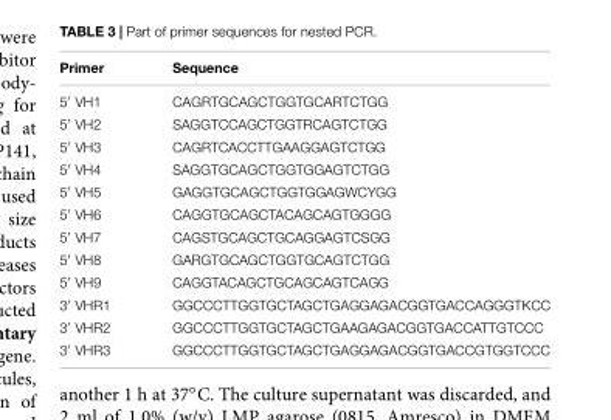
<table><thead><tr><td>Primer</td><td>Sequence</td></tr></thead><tbody><tr><td>5′ VH1</td><td>CAGRTGCAGCTGGTGCARTCTGG</td></tr><tr><td>5′ VH2</td><td>SAGGTCCAGCTGGTRCAGTCTGG</td></tr><tr><td>5′ VH3</td><td>CAGRTCACCTTGAAGGAGTCTGG</td></tr><tr><td>5′ VH4</td><td>SAGGTGCAGCTGGTGGAGTCTGG</td></tr><tr><td>5′ VH5</td><td>GAGGTGCAGCTGGTGGAGWCYGG</td></tr><tr><td>5′ VH6</td><td>CAGGTGCAGCTACAGCAGTGGGG</td></tr><tr><td>5′ VH7</td><td>CAGSTGCAGCTGCAGGAGTCSGG</td></tr><tr><td>5′ VH8</td><td>GARGTGCAGCTGGTGCAGTCTGG</td></tr><tr><td>5′ VH9</td><td>CAGGTACAGCTGCAGCAGTCAGG</td></tr><tr><td>3′ VHR1</td><td>GGCCCTTGGTGCTAGCTGAGGAGACGGTGACCAGGGTKCC</td></tr><tr><td>3′ VHR2</td><td>GGCCCTTGGTGCTAGCTGAAGAGACGGTGACCATTGTCCC</td></tr><tr><td>3′ VHR3</td><td>GGCCCTTGGTGCTAGCTGAGGAGACGGTGACCGTGGTCCC</td></tr></tbody></table>